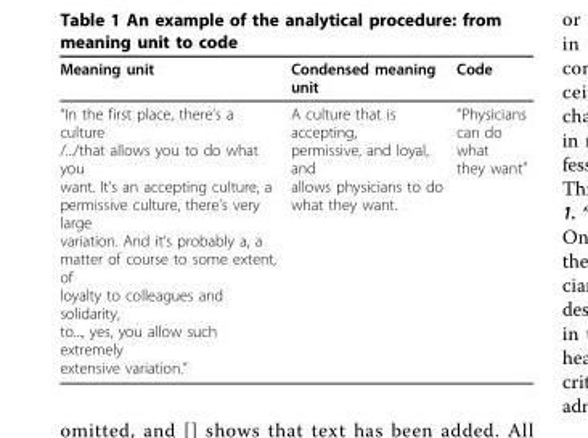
<table><thead><tr><td>Meaning unit</td><td>Condensed meaning unit</td><td>Code</td></tr></thead><tbody><tr><td>“In the first place, there’s a culture /.../that allows you to do what you want. It’s an accepting culture, a permissive culture, there’s very large variation. And it’s probably a, a matter of course to some extent, of loyalty to colleagues and solidarity, to..., yes, you allow such extremely extensive variation.”</td><td>A culture that is accepting, permissive, and loyal, and allows physicians to do what they want.</td><td>“Physicians can do what they want”</td></tr></tbody></table>